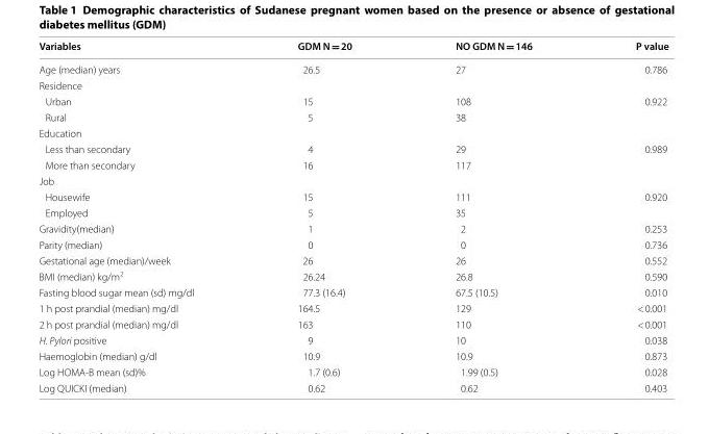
<table><thead><tr><td>Variables</td><td>GDM N = 20</td><td>NO GDM N = 146</td><td>P value</td></tr></thead><tbody><tr><td>Age (median) years</td><td>26.5</td><td>27</td><td>0.786</td></tr><tr><td colspan="4">Residence</td></tr><tr><td>Urban</td><td>15</td><td>108</td><td rowspan="2">0.922</td></tr><tr><td>Rural</td><td>5</td><td>38</td></tr><tr><td colspan="4">Education</td></tr><tr><td>Less than secondary</td><td>4</td><td>29</td><td rowspan="2">0.989</td></tr><tr><td>More than secondary</td><td>16</td><td>117</td></tr><tr><td colspan="4">Job</td></tr><tr><td>Housewife</td><td>15</td><td>111</td><td rowspan="2">0.920</td></tr><tr><td>Employed</td><td>5</td><td>35</td></tr><tr><td>Gravidity(median)</td><td>1</td><td>2</td><td>0.253</td></tr><tr><td>Parity (median)</td><td>0</td><td>0</td><td>0.736</td></tr><tr><td>Gestational age (median)/week</td><td>26</td><td>26</td><td>0.552</td></tr><tr><td>BMI (median) kg/m<sup>2</sup></td><td>26.24</td><td>26.8</td><td>0.590</td></tr><tr><td>Fasting blood sugar mean (sd) mg/dl</td><td>77.3 (16.4)</td><td>67.5 (10.5)</td><td>0.010</td></tr><tr><td>1 h post prandial (median) mg/dl</td><td>164.5</td><td>129</td><td>&lt; 0.001</td></tr><tr><td>2 h post prandial (median) mg/dl</td><td>163</td><td>110</td><td>&lt; 0.001</td></tr><tr><td>H. Pylori positive</td><td>9</td><td>10</td><td>0.038</td></tr><tr><td>Haemoglobin (median) g/dl</td><td>10.9</td><td>10.9</td><td>0.873</td></tr><tr><td>Log HOMA-B mean (sd)%</td><td>1.7 (0.6)</td><td>1.99 (0.5)</td><td>0.028</td></tr><tr><td>Log QUICKI (median)</td><td>0.62</td><td>0.62</td><td>0.403</td></tr></tbody></table>